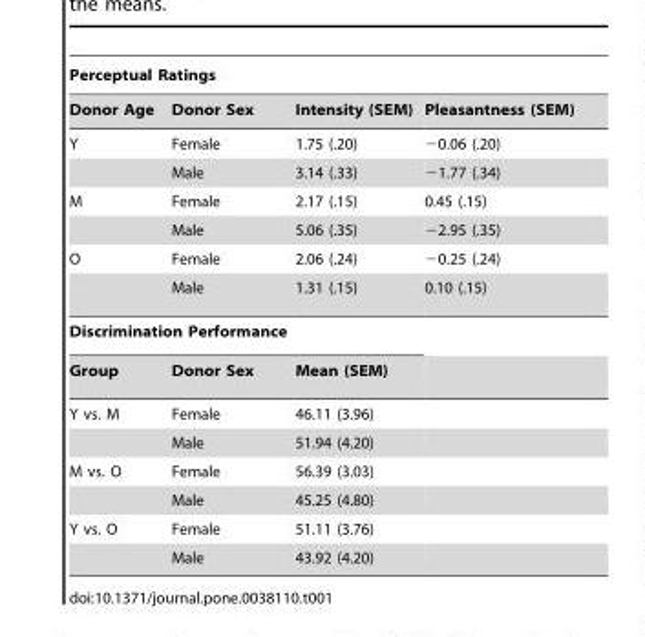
<table><thead><tr><td colspan="4">Perceptual Ratings</td></tr><tr><td>Donor Age</td><td>Donor Sex</td><td>Intensity (SEM)</td><td>Pleasantness (SEM)</td></tr></thead><tbody><tr><td rowspan="2">Y</td><td>Female</td><td>1.75 (.20)</td><td>−0.06 (.20)</td></tr><tr><td>Male</td><td>3.14 (.33)</td><td>−1.77 (.34)</td></tr><tr><td rowspan="2">M</td><td>Female</td><td>2.17 (.15)</td><td>0.45 (.15)</td></tr><tr><td>Male</td><td>5.06 (.35)</td><td>−2.95 (.35)</td></tr><tr><td rowspan="2">O</td><td>Female</td><td>2.06 (.24)</td><td>−0.25 (.24)</td></tr><tr><td>Male</td><td>1.31 (.15)</td><td>0.10 (.15)</td></tr><tr><td colspan="4">Discrimination Performance</td></tr><tr><td>Group</td><td>Donor Sex</td><td>Mean (SEM)</td><td></td></tr><tr><td rowspan="2">Y vs. M</td><td>Female</td><td>46.11 (3.96)</td><td></td></tr><tr><td>Male</td><td>51.94 (4.20)</td><td></td></tr><tr><td rowspan="2">M vs. O</td><td>Female</td><td>56.39 (3.03)</td><td></td></tr><tr><td>Male</td><td>45.25 (4.80)</td><td></td></tr><tr><td rowspan="2">Y vs. O</td><td>Female</td><td>51.11 (3.76)</td><td></td></tr><tr><td>Male</td><td>43.92 (4.20)</td><td></td></tr></tbody></table>